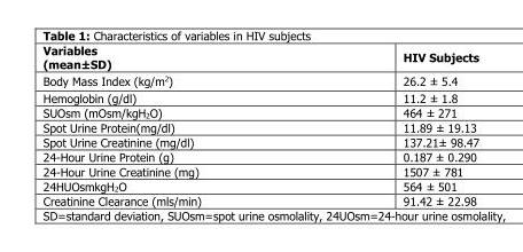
<table><thead><tr><td>Variables (mean±SD)</td><td>HIV Subjects</td></tr></thead><tbody><tr><td>Body Mass Index (kg/m<sup>2</sup>)</td><td>26.2 ± 5.4</td></tr><tr><td>Hemoglobin (g/dl)</td><td>11.2 ± 1.8</td></tr><tr><td>SUOsm (mOsm/kgH<sub>2</sub>O)</td><td>464 ± 271</td></tr><tr><td>Spot Urine Protein(mg/dl)</td><td>11.89 ± 19.13</td></tr><tr><td>Spot Urine Creatinine (mg/dl)</td><td>137.21± 98.47</td></tr><tr><td>24-Hour Urine Protein (g)</td><td>0.187 ± 0.290</td></tr><tr><td>24-Hour Urine Creatinine (mg)</td><td>1507 ± 781</td></tr><tr><td>24HUOsmkgH<sub>2</sub>O</td><td>564 ± 501</td></tr><tr><td>Creatinine Clearance (mls/min)</td><td>91.42 ± 22.98</td></tr></tbody></table>